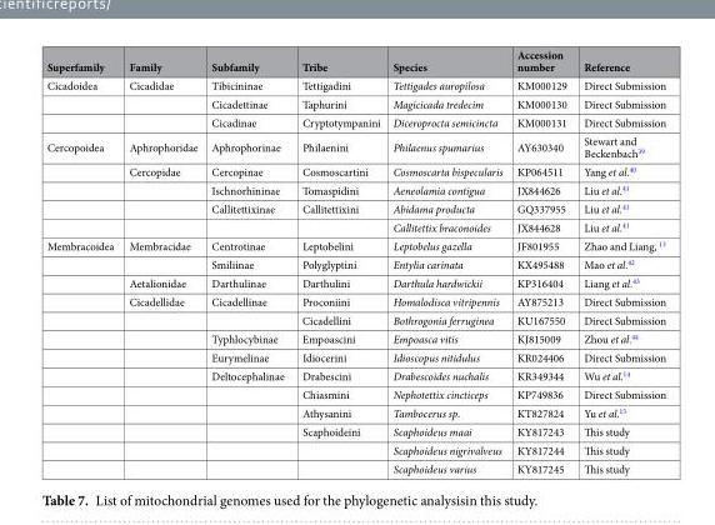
<table><thead><tr><td>Superfamily</td><td>Family</td><td>Subfamily</td><td>Tribe</td><td>Species</td><td>Accession number</td><td>Reference</td></tr></thead><tbody><tr><td rowspan="3">Cicadoidea</td><td>Cicadidae</td><td>Tibicininae</td><td>Tettigadini</td><td>Tettigades auropilosa</td><td>KM000129</td><td>Direct Submission</td></tr><tr><td></td><td>Cicadettinae</td><td>Taphurini</td><td>Magicicada tredecim</td><td>KM000130</td><td>Direct Submission</td></tr><tr><td></td><td>Cicadinae</td><td>Cryptotympanini</td><td>Diceroprocta semicincta</td><td>KM000131</td><td>Direct Submission</td></tr><tr><td rowspan="5">Cercopoidea</td><td>Aphrophoridae</td><td>Aphrophorinae</td><td>Philaenini</td><td>Philaenus spumarius</td><td>AY630340</td><td>Stewart and Beckenbach<sup>39</sup></td></tr><tr><td>Cercopidae</td><td>Cercopinae</td><td>Cosmoscartini</td><td>Cosmoscarta bispecularis</td><td>KP064511</td><td>Yang et al.<sup>40</sup></td></tr><tr><td></td><td>Ischnorhininae</td><td>Tomaspidini</td><td>Aeneolamia contigua</td><td>JX844626</td><td>Liu et al.<sup>41</sup></td></tr><tr><td></td><td>Callitettixinae</td><td>Callitettixini</td><td>Abidama producta</td><td>GQ337955</td><td>Liu et al.<sup>41</sup></td></tr><tr><td></td><td></td><td></td><td>Callitettix braconoides</td><td>JX844628</td><td>Liu et al.<sup>41</sup></td></tr><tr><td rowspan="13">Membracoidea</td><td>Membracidae</td><td>Centrotinae</td><td>Leptobelini</td><td>Leptobelus gazella</td><td>JF801955</td><td>Zhao and Liang, <sup>13</sup></td></tr><tr><td></td><td>Smiliinae</td><td>Polyglyptini</td><td>Entylia carinata</td><td>KX495488</td><td>Mao et al.<sup>42</sup></td></tr><tr><td>Aetalionidae</td><td>Darthulinae</td><td>Darthulini</td><td>Darthula hardwickii</td><td>KP316404</td><td>Liang et al.<sup>43</sup></td></tr><tr><td>Cicadellidae</td><td>Cicadellinae</td><td>Proconiini</td><td>Homalodisca vitripennis</td><td>AY875213</td><td>Direct Submission</td></tr><tr><td></td><td></td><td>Cicadellini</td><td>Bothrogonia ferruginea</td><td>KU167550</td><td>Direct Submission</td></tr><tr><td></td><td>Typhlocybinae</td><td>Empoascini</td><td>Empoasca vitis</td><td>KJ815009</td><td>Zhou et al.<sup>44</sup></td></tr><tr><td></td><td>Eurymelinae</td><td>Idiocerini</td><td>Idioscopus nitidulus</td><td>KR024406</td><td>Direct Submission</td></tr><tr><td></td><td>Deltocephalinae</td><td>Drabescini</td><td>Drabescoides nuchalis</td><td>KR349344</td><td>Wu et al.<sup>14</sup></td></tr><tr><td></td><td></td><td>Chiasmini</td><td>Nephotettix cincticeps</td><td>KP749836</td><td>Direct Submission</td></tr><tr><td></td><td></td><td>Athysanini</td><td>Tambocerus sp.</td><td>KT827824</td><td>Yu et al.<sup>15</sup></td></tr><tr><td></td><td></td><td>Scaphoideini</td><td>Scaphoideus maai</td><td>KY817243</td><td>This study</td></tr><tr><td></td><td></td><td></td><td>Scaphoideus nigrivalveus</td><td>KY817244</td><td>This study</td></tr><tr><td></td><td></td><td></td><td>Scaphoideus varius</td><td>KY817245</td><td>This study</td></tr></tbody></table>